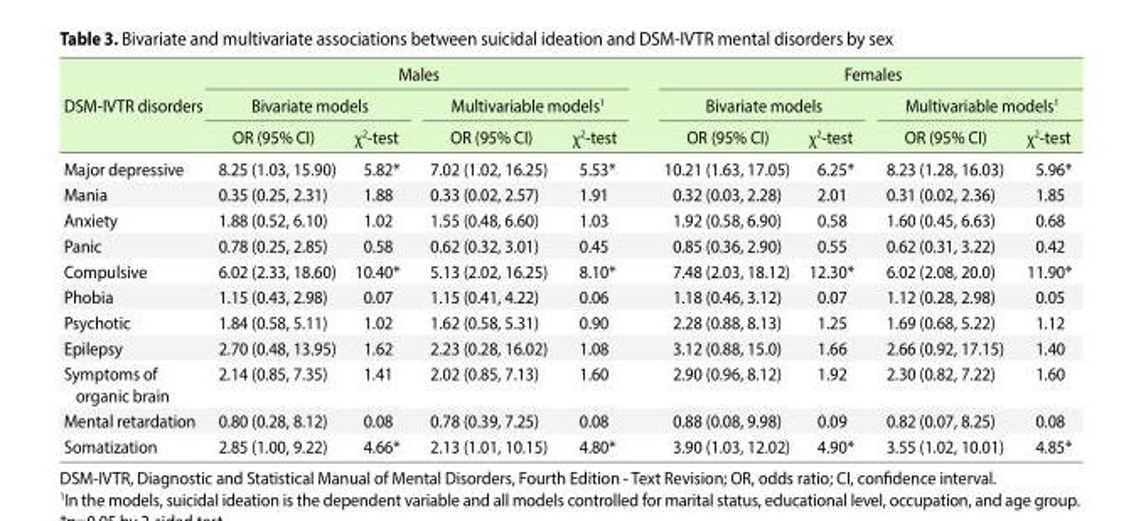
<table><thead><tr><td rowspan="3">DSM-IVTR disorders</td><td colspan="4">Males</td><td colspan="4">Females</td></tr><tr><td colspan="2">Bivariate models</td><td colspan="2">Multivariable models<sup>1</sup></td><td colspan="2">Bivariate models</td><td colspan="2">Multivariable models<sup>1</sup></td></tr><tr><td>OR (95% CI)</td><td>χ2-test</td><td>OR (95% CI)</td><td>χ2-test</td><td>OR (95% CI)</td><td>χ2-test</td><td>OR (95% CI)</td><td>χ2-test</td></tr></thead><tbody><tr><td>Major depressive</td><td>8.25 (1.03, 15.90)</td><td>5.82*</td><td>7.02 (1.02, 16.25)</td><td>5.53*</td><td>10.21 (1.63, 17.05)</td><td>6.25*</td><td>8.23 (1.28, 16.03)</td><td>5.96*</td></tr><tr><td>Mania</td><td>0.35 (0.25, 2.31)</td><td>1.88</td><td>0.33 (0.02, 2.57)</td><td>1.91</td><td>0.32 (0.03, 2.28)</td><td>2.01</td><td>0.31 (0.02, 2.36)</td><td>1.85</td></tr><tr><td>Anxiety</td><td>1.88 (0.52, 6.10)</td><td>1.02</td><td>1.55 (0.48, 6.60)</td><td>1.03</td><td>1.92 (0.58, 6.90)</td><td>0.58</td><td>1.60 (0.45, 6.63)</td><td>0.68</td></tr><tr><td>Panic</td><td>0.78 (0.25, 2.85)</td><td>0.58</td><td>0.62 (0.32, 3.01)</td><td>0.45</td><td>0.85 (0.36, 2.90)</td><td>0.55</td><td>0.62 (0.31, 3.22)</td><td>0.42</td></tr><tr><td>Compulsive</td><td>6.02 (2.33, 18.60)</td><td>10.40*</td><td>5.13 (2.02, 16.25)</td><td>8.10*</td><td>7.48 (2.03, 18.12)</td><td>12.30*</td><td>6.02 (2.08, 20.0)</td><td>11.90*</td></tr><tr><td>Phobia</td><td>1.15 (0.43, 2.98)</td><td>0.07</td><td>1.15 (0.41, 4.22)</td><td>0.06</td><td>1.18 (0.46, 3.12)</td><td>0.07</td><td>1.12 (0.28, 2.98)</td><td>0.05</td></tr><tr><td>Psychotic</td><td>1.84 (0.58, 5.11)</td><td>1.02</td><td>1.62 (0.58, 5.31)</td><td>0.90</td><td>2.28 (0.88, 8.13)</td><td>1.25</td><td>1.69 (0.68, 5.22)</td><td>1.12</td></tr><tr><td>Epilepsy</td><td>2.70 (0.48, 13.95)</td><td>1.62</td><td>2.23 (0.28, 16.02)</td><td>1.08</td><td>3.12 (0.88, 15.0)</td><td>1.66</td><td>2.66 (0.92, 17.15)</td><td>1.40</td></tr><tr><td>Symptoms of organic brain</td><td>2.14 (0.85, 7.35)</td><td>1.41</td><td>2.02 (0.85, 7.13)</td><td>1.60</td><td>2.90 (0.96, 8.12)</td><td>1.92</td><td>2.30 (0.82, 7.22)</td><td>1.60</td></tr><tr><td>Mental retardation</td><td>0.80 (0.28, 8.12)</td><td>0.08</td><td>0.78 (0.39, 7.25)</td><td>0.08</td><td>0.88 (0.08, 9.98)</td><td>0.09</td><td>0.82 (0.07, 8.25)</td><td>0.08</td></tr><tr><td>Somatization</td><td>2.85 (1.00, 9.22)</td><td>4.66*</td><td>2.13 (1.01, 10.15)</td><td>4.80*</td><td>3.90 (1.03, 12.02)</td><td>4.90*</td><td>3.55 (1.02, 10.01)</td><td>4.85*</td></tr></tbody></table>